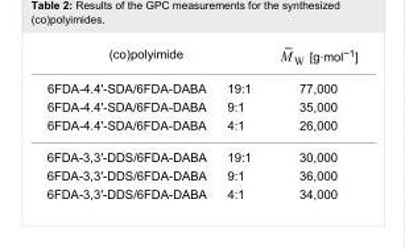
<table><tbody><tr><td colspan="2">(co)polyimide</td><td>[g·mol<sup>−1</sup>]</td></tr><tr><td>6FDA-4.4&#x27;-SDA/6FDA-DABA</td><td>19:1</td><td>77,000</td></tr><tr><td>6FDA-4.4&#x27;-SDA/6FDA-DABA</td><td>9:1</td><td>35,000</td></tr><tr><td>6FDA-4.4&#x27;-SDA/6FDA-DABA</td><td>4:1</td><td>26,000</td></tr><tr><td>6FDA-3,3′-DDS/6FDA-DABA</td><td>19:1</td><td>30,000</td></tr><tr><td>6FDA-3,3′-DDS/6FDA-DABA</td><td>9:1</td><td>36,000</td></tr><tr><td>6FDA-3,3′-DDS/6FDA-DABA</td><td>4:1</td><td>34,000</td></tr></tbody></table>